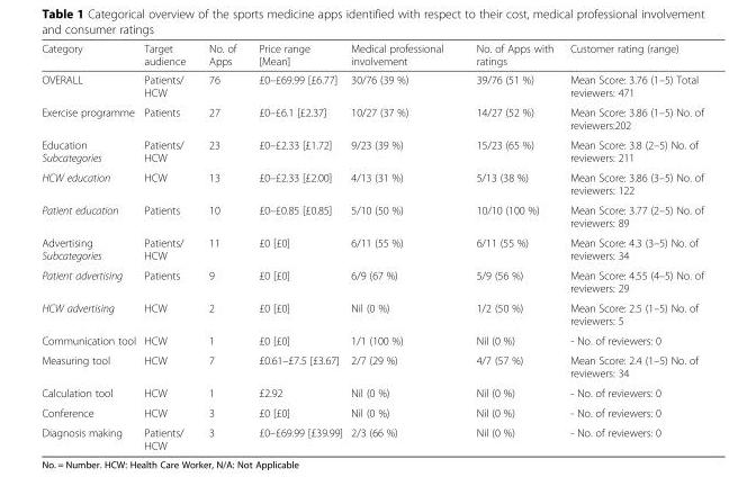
<table><thead><tr><td>Category</td><td>Target audience</td><td>No. of Apps</td><td>Price range [Mean]</td><td>Medical professional involvement</td><td>No. of Apps with ratings</td><td>Customer rating (range)</td></tr></thead><tbody><tr><td>OVERALL</td><td>Patients/ HCW</td><td>76</td><td>£0–£69.99 [£6.77]</td><td>30/76 (39 %)</td><td>39/76 (51 %)</td><td>Mean Score: 3.76 (1–5) Total reviewers: 471</td></tr><tr><td>Exercise programme</td><td>Patients</td><td>27</td><td>£0–£6.1 [£2.37]</td><td>10/27 (37 %)</td><td>14/27 (52 %)</td><td>Mean Score: 3.86 (1–5) No. of reviewers:202</td></tr><tr><td>Education Subcategories</td><td>Patients/ HCW</td><td>23</td><td>£0–£2.33 [£1.72]</td><td>9/23 (39 %)</td><td>15/23 (65 %)</td><td>Mean Score: 3.8 (2–5) No. of reviewers: 211</td></tr><tr><td>HCW education</td><td>HCW</td><td>13</td><td>£0–£2.33 [£2.00]</td><td>4/13 (31 %)</td><td>5/13 (38 %)</td><td>Mean Score: 3.86 (3–5) No. of reviewers: 122</td></tr><tr><td>Patient education</td><td>Patients</td><td>10</td><td>£0–£0.85 [£0.85]</td><td>5/10 (50 %)</td><td>10/10 (100 %)</td><td>Mean Score: 3.77 (2–5) No. of reviewers: 89</td></tr><tr><td>Advertising Subcategories</td><td>Patients/ HCW</td><td>11</td><td>£0 [£0]</td><td>6/11 (55 %)</td><td>6/11 (55 %)</td><td>Mean Score: 4.3 (3–5) No. of reviewers: 34</td></tr><tr><td>Patient advertising</td><td>Patients</td><td>9</td><td>£0 [£0]</td><td>6/9 (67 %)</td><td>5/9 (56 %)</td><td>Mean Score: 4.55 (4–5) No. of reviewers: 29</td></tr><tr><td>HCW advertising</td><td>HCW</td><td>2</td><td>£0 [£0]</td><td>Nil (0 %)</td><td>1/2 (50 %)</td><td>Mean Score: 2.5 (1–5) No. of reviewers: 5</td></tr><tr><td>Communication tool</td><td>HCW</td><td>1</td><td>£0 [£0]</td><td>1/1 (100 %)</td><td>Nil (0 %)</td><td>- No. of reviewers: 0</td></tr><tr><td>Measuring tool</td><td>HCW</td><td>7</td><td>£0.61–£7.5 [£3.67]</td><td>2/7 (29 %)</td><td>4/7 (57 %)</td><td>Mean Score: 2.4 (1–5) No. of reviewers: 34</td></tr><tr><td>Calculation tool</td><td>HCW</td><td>1</td><td>£2.92</td><td>Nil (0 %)</td><td>Nil (0 %)</td><td>- No. of reviewers: 0</td></tr><tr><td>Conference</td><td>HCW</td><td>3</td><td>£0 [£0]</td><td>Nil (0 %)</td><td>Nil (0 %)</td><td>- No. of reviewers: 0</td></tr><tr><td>Diagnosis making</td><td>Patients/ HCW</td><td>3</td><td>£0–£69.99 [£39.99]</td><td>2/3 (66 %)</td><td>Nil (0 %)</td><td>- No. of reviewers: 0</td></tr></tbody></table>